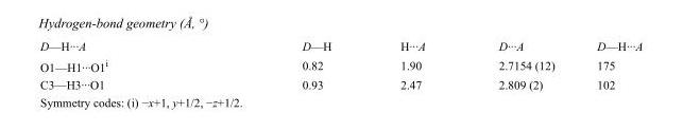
<table><tbody><tr><td>D—H···A</td><td>D—H</td><td>H···A</td><td>D···A</td><td>D—H···A</td></tr><tr><td>O1—H1···O1<sup>i</sup></td><td>0.82</td><td>1.90</td><td>2.7154 (12)</td><td>175</td></tr><tr><td>C3—H3···O1</td><td>0.93</td><td>2.47</td><td>2.809 (2)</td><td>102</td></tr></tbody></table>